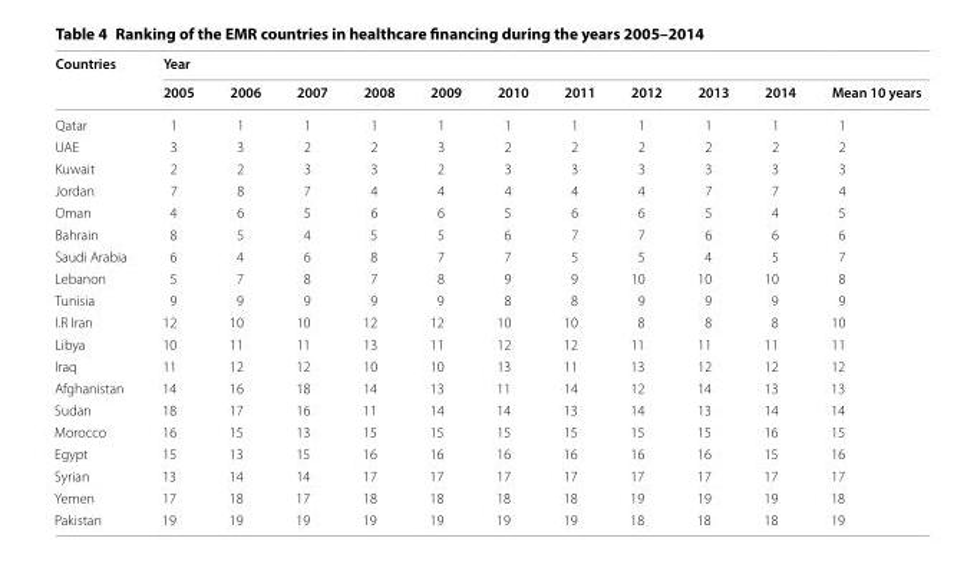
<table><thead><tr><td rowspan="2">Countries</td><td colspan="11">Year</td></tr><tr><td>2005</td><td>2006</td><td>2007</td><td>2008</td><td>2009</td><td>2010</td><td>2011</td><td>2012</td><td>2013</td><td>2014</td><td>Mean 10 years</td></tr></thead><tbody><tr><td>Qatar</td><td>1</td><td>1</td><td>1</td><td>1</td><td>1</td><td>1</td><td>1</td><td>1</td><td>1</td><td>1</td><td>1</td></tr><tr><td>UAE</td><td>3</td><td>3</td><td>2</td><td>2</td><td>3</td><td>2</td><td>2</td><td>2</td><td>2</td><td>2</td><td>2</td></tr><tr><td>Kuwait</td><td>2</td><td>2</td><td>3</td><td>3</td><td>2</td><td>3</td><td>3</td><td>3</td><td>3</td><td>3</td><td>3</td></tr><tr><td>Jordan</td><td>7</td><td>8</td><td>7</td><td>4</td><td>4</td><td>4</td><td>4</td><td>4</td><td>7</td><td>7</td><td>4</td></tr><tr><td>Oman</td><td>4</td><td>6</td><td>5</td><td>6</td><td>6</td><td>5</td><td>6</td><td>6</td><td>5</td><td>4</td><td>5</td></tr><tr><td>Bahrain</td><td>8</td><td>5</td><td>4</td><td>5</td><td>5</td><td>6</td><td>7</td><td>7</td><td>6</td><td>6</td><td>6</td></tr><tr><td>Saudi Arabia</td><td>6</td><td>4</td><td>6</td><td>8</td><td>7</td><td>7</td><td>5</td><td>5</td><td>4</td><td>5</td><td>7</td></tr><tr><td>Lebanon</td><td>5</td><td>7</td><td>8</td><td>7</td><td>8</td><td>9</td><td>9</td><td>10</td><td>10</td><td>10</td><td>8</td></tr><tr><td>Tunisia</td><td>9</td><td>9</td><td>9</td><td>9</td><td>9</td><td>8</td><td>8</td><td>9</td><td>9</td><td>9</td><td>9</td></tr><tr><td>I.R Iran</td><td>12</td><td>10</td><td>10</td><td>12</td><td>12</td><td>10</td><td>10</td><td>8</td><td>8</td><td>8</td><td>10</td></tr><tr><td>Libya</td><td>10</td><td>11</td><td>11</td><td>13</td><td>11</td><td>12</td><td>12</td><td>11</td><td>11</td><td>11</td><td>11</td></tr><tr><td>Iraq</td><td>11</td><td>12</td><td>12</td><td>10</td><td>10</td><td>13</td><td>11</td><td>13</td><td>12</td><td>12</td><td>12</td></tr><tr><td>Afghanistan</td><td>14</td><td>16</td><td>18</td><td>14</td><td>13</td><td>11</td><td>14</td><td>12</td><td>14</td><td>13</td><td>13</td></tr><tr><td>Sudan</td><td>18</td><td>17</td><td>16</td><td>11</td><td>14</td><td>14</td><td>13</td><td>14</td><td>13</td><td>14</td><td>14</td></tr><tr><td>Morocco</td><td>16</td><td>15</td><td>13</td><td>15</td><td>15</td><td>15</td><td>15</td><td>15</td><td>15</td><td>16</td><td>15</td></tr><tr><td>Egypt</td><td>15</td><td>13</td><td>15</td><td>16</td><td>16</td><td>16</td><td>16</td><td>16</td><td>16</td><td>15</td><td>16</td></tr><tr><td>Syrian</td><td>13</td><td>14</td><td>14</td><td>17</td><td>17</td><td>17</td><td>17</td><td>17</td><td>17</td><td>17</td><td>17</td></tr><tr><td>Yemen</td><td>17</td><td>18</td><td>17</td><td>18</td><td>18</td><td>18</td><td>18</td><td>19</td><td>19</td><td>19</td><td>18</td></tr><tr><td>Pakistan</td><td>19</td><td>19</td><td>19</td><td>19</td><td>19</td><td>19</td><td>19</td><td>18</td><td>18</td><td>18</td><td>19</td></tr></tbody></table>